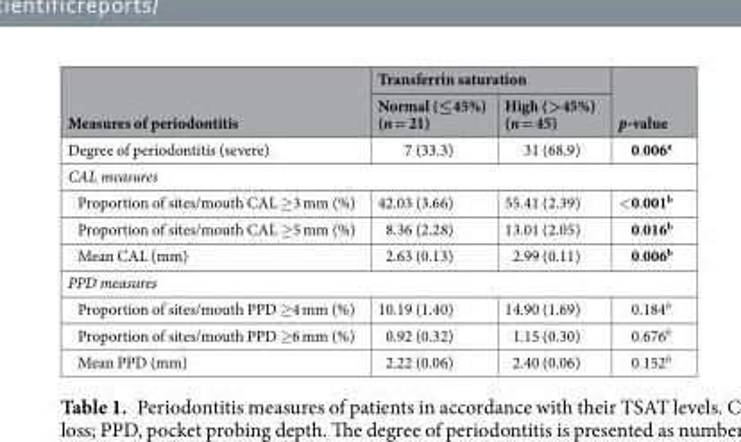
<table><thead><tr><td rowspan="2">Measures of periodontitis</td><td colspan="2">Transferrin saturation</td><td rowspan="2">p-value</td></tr><tr><td>Normal (≤45%) (n = 21)</td><td>High (&gt;45%) (n = 45)</td></tr></thead><tbody><tr><td>Degree of periodontitis (severe)</td><td>7 (33.3)</td><td>31 (68.9)</td><td>0.006<sup>a</sup></td></tr><tr><td colspan="4">CAL measures</td></tr><tr><td>Proportion of sites/mouth CAL ≥3 mm (%)</td><td>42.03 (3.66)</td><td>55.41 (2.39)</td><td>&lt;0.001<sup>b</sup></td></tr><tr><td>Proportion of sites/mouth CAL ≥5 mm (%)</td><td>8.36 (2.28)</td><td>13.01 (2.05)</td><td>0.016<sup>b</sup></td></tr><tr><td>Mean CAL (mm)</td><td>2.63 (0.13)</td><td>2.99 (0.11)</td><td>0.006<sup>b</sup></td></tr><tr><td colspan="4">PPD measures</td></tr><tr><td>Proportion of sites/mouth PPD ≥4 mm (%)</td><td>10.19 (1.40)</td><td>14.90 (1.69)</td><td>0.184<sup>b</sup></td></tr><tr><td>Proportion of sites/mouth PPD ≥6 mm (%)</td><td>0.92 (0.32)</td><td>1.15 (0.30)</td><td>0.676<sup>b</sup></td></tr><tr><td>Mean PPD (mm)</td><td>2.22 (0.06)</td><td>2.40 (0.06)</td><td>0.152<sup>b</sup></td></tr></tbody></table>